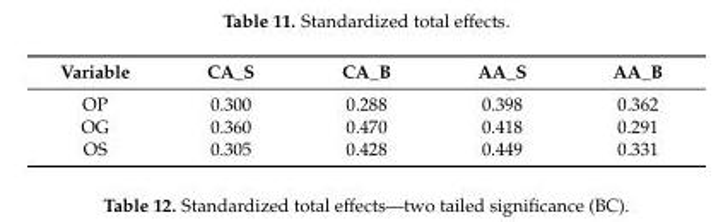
<table><thead><tr><td>Variable</td><td>CA_S</td><td>CA_B</td><td>AA_S</td><td>AA_B</td></tr></thead><tbody><tr><td>OP</td><td>0.300</td><td>0.288</td><td>0.398</td><td>0.362</td></tr><tr><td>OG</td><td>0.360</td><td>0.470</td><td>0.418</td><td>0.291</td></tr><tr><td>OS</td><td>0.305</td><td>0.428</td><td>0.449</td><td>0.331</td></tr></tbody></table>